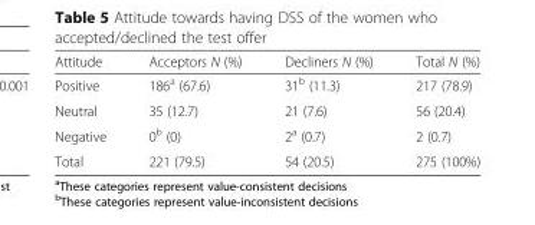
<table><thead><tr><td>Attitude</td><td>Acceptors N (%)</td><td>Decliners N (%)</td><td>Total N (%)</td></tr></thead><tbody><tr><td>Positive</td><td>186<sup>a</sup> (67.6)</td><td>31<sup>b</sup> (11.3)</td><td>217 (78.9)</td></tr><tr><td>Neutral</td><td>35 (12.7)</td><td>21 (7.6)</td><td>56 (20.4)</td></tr><tr><td>Negative</td><td>0<sup>b</sup> (0)</td><td>2<sup>a</sup> (0.7)</td><td>2 (0.7)</td></tr><tr><td>Total</td><td>221 (79.5)</td><td>54 (20.5)</td><td>275 (100%)</td></tr></tbody></table>